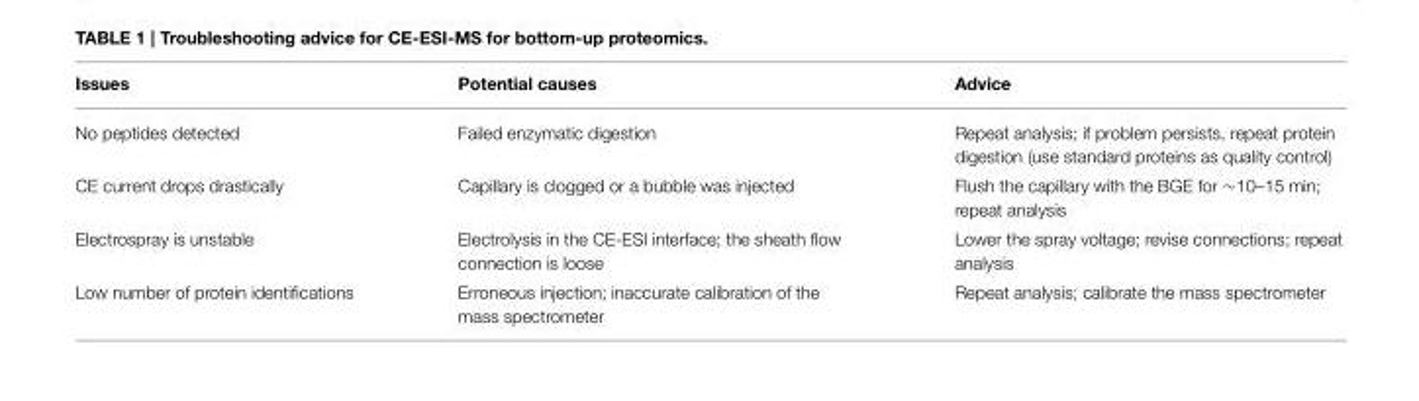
<table><thead><tr><td>Issues</td><td>Potential causes</td><td>Advice</td></tr></thead><tbody><tr><td>No peptides detected</td><td>Failed enzymatic digestion</td><td>Repeat analysis; if problem persists, repeat protein digestion (use standard proteins as quality control)</td></tr><tr><td>CE current drops drastically</td><td>Capillary is clogged or a bubble was injected</td><td>Flush the capillary with the BGE for ∼10–15 min; repeat analysis</td></tr><tr><td>Electrospray is unstable</td><td>Electrolysis in the CE-ESI interface; the sheath flow connection is loose</td><td>Lower the spray voltage; revise connections; repeat analysis</td></tr><tr><td>Low number of protein identifications</td><td>Erroneous injection; inaccurate calibration of the mass spectrometer</td><td>Repeat analysis; calibrate the mass spectrometer</td></tr></tbody></table>